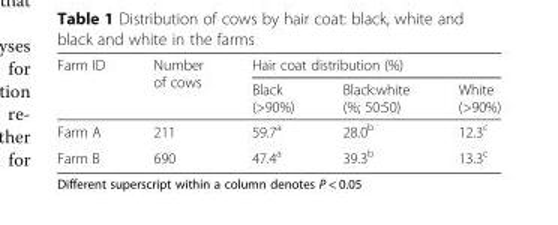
<table><thead><tr><td rowspan="2">Farm ID</td><td rowspan="2">Number of cows</td><td colspan="3">Hair coat distribution (%)</td></tr><tr><td>Black (&gt;90%)</td><td>Black:white (%; 50:50)</td><td>White (&gt;90%)</td></tr></thead><tbody><tr><td>Farm A</td><td>211</td><td>59.7<sup>a</sup></td><td>28.0<sup>b</sup></td><td>12.3<sup>c</sup></td></tr><tr><td>Farm B</td><td>690</td><td>47.4<sup>a</sup></td><td>39.3<sup>b</sup></td><td>13.3<sup>c</sup></td></tr></tbody></table>